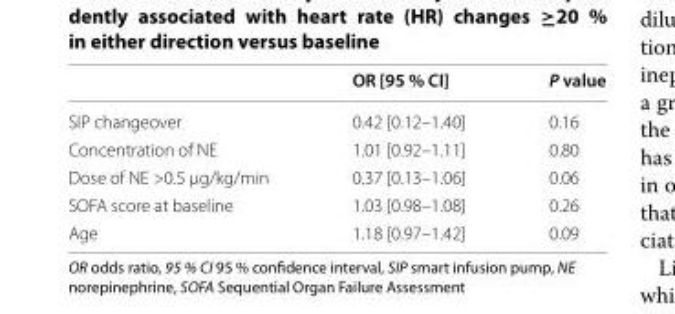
<table><thead><tr><td></td><td>OR [95 % CI]</td><td>P value</td></tr></thead><tbody><tr><td>SIP changeover</td><td>0.42 [0.12–1.40]</td><td>0.16</td></tr><tr><td>Concentration of NE</td><td>1.01 [0.92–1.11]</td><td>0.80</td></tr><tr><td>Dose of NE &gt;0.5 μg/kg/min</td><td>0.37 [0.13–1.06]</td><td>0.06</td></tr><tr><td>SOFA score at baseline</td><td>1.03 [0.98–1.08]</td><td>0.26</td></tr><tr><td>Age</td><td>1.18 [0.97–1.42]</td><td>0.09</td></tr></tbody></table>